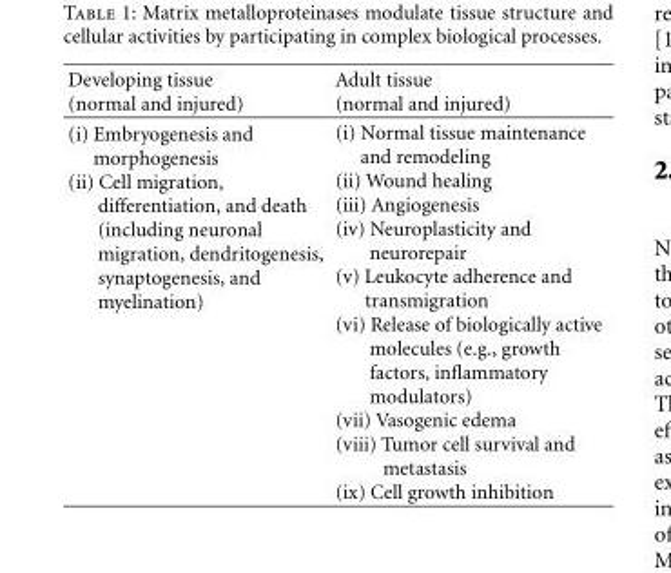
<table><thead><tr><td>Developing tissue (normal and injured)</td><td>Adult tissue (normal and injured)</td></tr></thead><tbody><tr><td>(i) Embryogenesis and morphogenesis (ii) Cell migration, differentiation, and death (including neuronal migration, dendritogenesis, synaptogenesis, and myelination)</td><td>(i) Normal tissue maintenance and remodeling (ii) Wound healing (iii) Angiogenesis (iv) Neuroplasticity and neurorepair (v) Leukocyte adherence and transmigration (vi) Release of biologically active molecules (e.g., growth factors, inflammatory modulators) (vii) Vasogenic edema (viii) Tumor cell survival and metastasis (ix) Cell growth inhibition</td></tr></tbody></table>